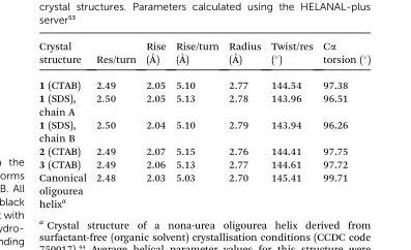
<table><thead><tr><td>Crystal structure</td><td>Res/turn</td><td>Rise (˚A)</td><td>Rise/turn (˚A)</td><td>Radius (˚A)</td><td>Twist/res (°)</td><td>Cα torsion (°)</td></tr></thead><tbody><tr><td>1 (CTAB)</td><td>2.49</td><td>2.05</td><td>5.10</td><td>2.77</td><td>144.54</td><td>97.38</td></tr><tr><td>1 (SDS), chain A</td><td>2.50</td><td>2.05</td><td>5.13</td><td>2.78</td><td>143.96</td><td>96.51</td></tr><tr><td>1 (SDS), chain B</td><td>2.50</td><td>2.04</td><td>5.10</td><td>2.79</td><td>143.94</td><td>96.26</td></tr><tr><td>2 (CTAB)</td><td>2.49</td><td>2.07</td><td>5.15</td><td>2.76</td><td>144.41</td><td>97.75</td></tr><tr><td>3 (CTAB)</td><td>2.49</td><td>2.06</td><td>5.13</td><td>2.77</td><td>144.61</td><td>97.72</td></tr><tr><td>Canonical oligourea helix<sup>a</sup></td><td>2.48</td><td>2.03</td><td>5.03</td><td>2.70</td><td>145.41</td><td>99.71</td></tr></tbody></table>